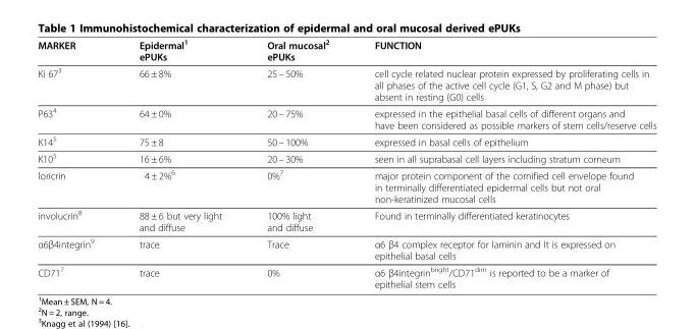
<table><thead><tr><td>MARKER</td><td>Epidermal<sup>1</sup> ePUKs</td><td>Oral mucosal<sup>2</sup> ePUKs</td><td>FUNCTION</td></tr></thead><tbody><tr><td>Ki 67<sup>3</sup></td><td>66 ± 8%</td><td>25 – 50%</td><td>cell cycle related nuclear protein expressed by proliferating cells in all phases of the active cell cycle (G1, S, G2 and M phase) but absent in resting (G0) cells</td></tr><tr><td>P63<sup>4</sup></td><td>64 ± 0%</td><td>20 – 75%</td><td>expressed in the epithelial basal cells of different organs and have been considered as possible markers of stem cells/reserve cells</td></tr><tr><td>K14<sup>5</sup></td><td>75 ± 8</td><td>50 – 100%</td><td>expressed in basal cells of epithelium</td></tr><tr><td>K10<sup>5</sup></td><td>16 ± 6%</td><td>20 – 30%</td><td>seen in all suprabasal cell layers including stratum corneum</td></tr><tr><td>loricrin</td><td>4 ± 2%<sup>6</sup></td><td>0%<sup>7</sup></td><td>major protein component of the cornified cell envelope found in terminally differentiated epidermal cells but not oral non-keratinized mucosal cells</td></tr><tr><td>involucrin<sup>8</sup></td><td>88 ± 6 but very light and diffuse</td><td>100% light and diffuse</td><td>Found in terminally differentiated keratinocytes</td></tr><tr><td>α6β4integrin<sup>9</sup></td><td>trace</td><td>Trace</td><td>α6 β4 complex receptor for laminin and It is expressed on epithelial basal cells</td></tr><tr><td>CD71<sup>7</sup></td><td>trace</td><td>0%</td><td>α6 β4integrin<sup>bright</sup>/CD71<sup>dim</sup> is reported to be a marker of epithelial stem cells</td></tr></tbody></table>